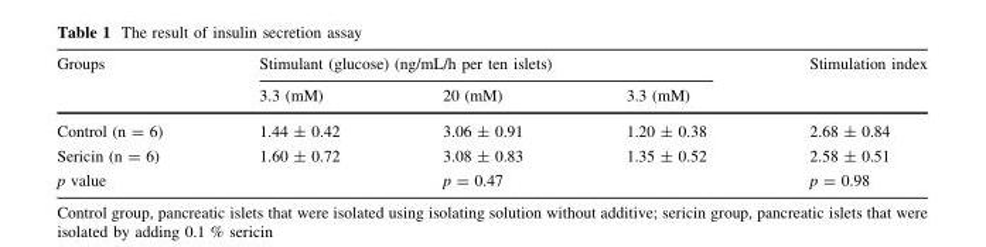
<table><thead><tr><td rowspan="2">Groups</td><td colspan="3">Stimulant (glucose) (ng/mL/h per ten islets)</td><td rowspan="2">Stimulation index</td></tr><tr><td>3.3 (mM)</td><td>20 (mM)</td><td>3.3 (mM)</td></tr></thead><tbody><tr><td>Control (n = 6)</td><td>1.44 ± 0.42</td><td>3.06 ± 0.91</td><td>1.20 ± 0.38</td><td>2.68 ± 0.84</td></tr><tr><td>Sericin (n = 6)</td><td>1.60 ± 0.72</td><td>3.08 ± 0.83</td><td>1.35 ± 0.52</td><td>2.58 ± 0.51</td></tr><tr><td>p value</td><td></td><td>p = 0.47</td><td></td><td>p = 0.98</td></tr></tbody></table>